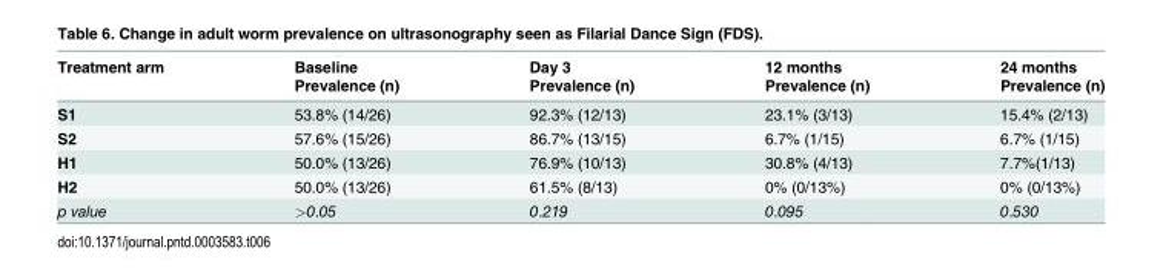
<table><thead><tr><td rowspan="2">Treatment arm</td><td rowspan="2">Baseline Prevalence (n)</td><td rowspan="2">Day 3 Prevalence (n)</td><td rowspan="2">12 months Prevalence (n)</td><td rowspan="2">24 months Prevalence (n)</td></tr><tr></tr></thead><tbody><tr><td>S1</td><td>53.8% (14/26)</td><td>92.3% (12/13)</td><td>23.1% (3/13)</td><td>15.4% (2/13)</td></tr><tr><td>S2</td><td>57.6% (15/26)</td><td>86.7% (13/15)</td><td>6.7% (1/15)</td><td>6.7% (1/15)</td></tr><tr><td>H1</td><td>50.0% (13/26)</td><td>76.9% (10/13)</td><td>30.8% (4/13)</td><td>7.7%(1/13)</td></tr><tr><td>H2</td><td>50.0% (13/26)</td><td>61.5% (8/13)</td><td>0% (0/13%)</td><td>0% (0/13%)</td></tr><tr><td>p value</td><td>&gt;0.05</td><td>0.219</td><td>0.095</td><td>0.530</td></tr></tbody></table>